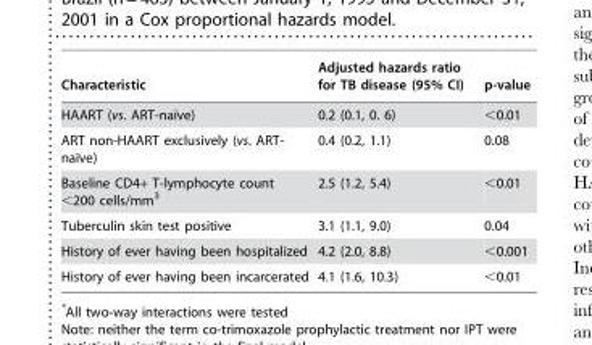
<table><thead><tr><td>Characteristic</td><td>Adjusted hazards ratio for TB disease (95% CI)</td><td>p-value</td></tr></thead><tbody><tr><td>HAART (vs. ART-naı¨ve)</td><td>0.2 (0.1, 0. 6)</td><td>&lt;0.01</td></tr><tr><td>ART non-HAART exclusively (vs. ART- naı¨ve)</td><td>0.4 (0.2, 1.1)</td><td>0.08</td></tr><tr><td>Baseline CD4+ T-lymphocyte count &lt;200 cells/mm<sup>3</sup></td><td>2.5 (1.2, 5.4)</td><td>&lt;0.01</td></tr><tr><td>Tuberculin skin test positive</td><td>3.1 (1.1, 9.0)</td><td>0.04</td></tr><tr><td>History of ever having been hospitalized</td><td>4.2 (2.0, 8.8)</td><td>&lt;0.001</td></tr><tr><td>History of ever having been incarcerated</td><td>4.1 (1.6, 10.3)</td><td>&lt;0.01</td></tr></tbody></table>